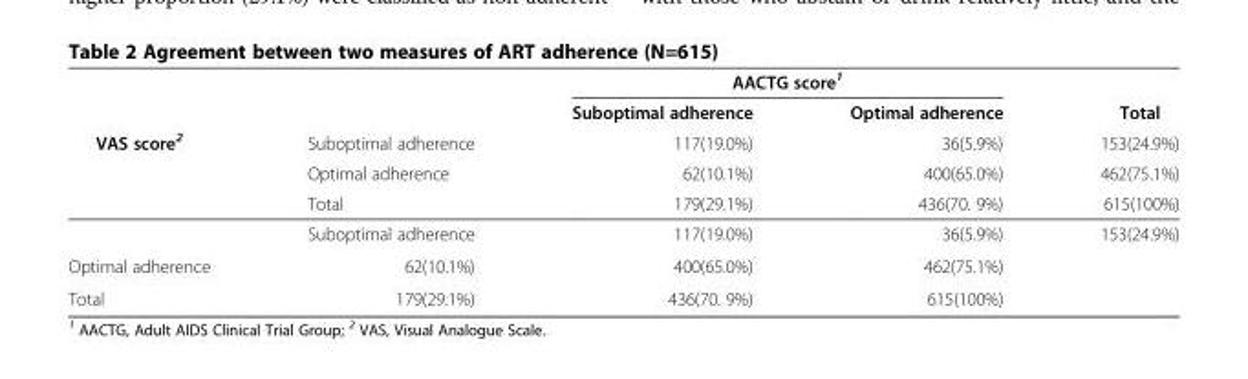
<table><thead><tr><td rowspan="5">VAS score<sup>2</sup></td><td rowspan="5">Suboptimal adherence Optimal adherence Total</td><td colspan="2">AACTG score<sup>1</sup></td><td rowspan="5">Total 153(24.9%) 462(75.1%) 615(100%)</td></tr><tr><td rowspan="4">Suboptimal adherence 117(19.0%) 62(10.1%) 179(29.1%)</td><td rowspan="4">Optimal adherence 36(5.9%) 400(65.0%) 436(70. 9%)</td></tr><tr></tr><tr></tr><tr></tr></thead><tbody><tr><td></td><td>Suboptimal adherence</td><td>117(19.0%)</td><td>36(5.9%)</td><td>153(24.9%)</td></tr><tr><td>Optimal adherence</td><td>62(10.1%)</td><td>400(65.0%)</td><td>462(75.1%)</td><td></td></tr><tr><td>Total</td><td>179(29.1%)</td><td>436(70. 9%)</td><td>615(100%)</td><td></td></tr></tbody></table>